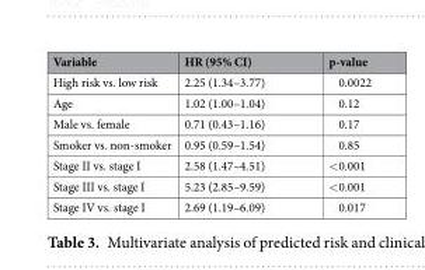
<table><thead><tr><td>Variable</td><td>HR (95% CI)</td><td>p-value</td></tr></thead><tbody><tr><td>High risk vs. low risk</td><td>2.25 (1.34–3.77)</td><td>0.0022</td></tr><tr><td>Age</td><td>1.02 (1.00–1.04)</td><td>0.12</td></tr><tr><td>Male vs. female</td><td>0.71 (0.43–1.16)</td><td>0.17</td></tr><tr><td>Smoker vs. non-smoker</td><td>0.95 (0.59–1.54)</td><td>0.85</td></tr><tr><td>Stage II vs. stage I</td><td>2.58 (1.47–4.51)</td><td>&lt;0.001</td></tr><tr><td>Stage III vs. stage I</td><td>5.23 (2.85–9.59)</td><td>&lt;0.001</td></tr><tr><td>Stage IV vs. stage I</td><td>2.69 (1.19–6.09)</td><td>0.017</td></tr></tbody></table>